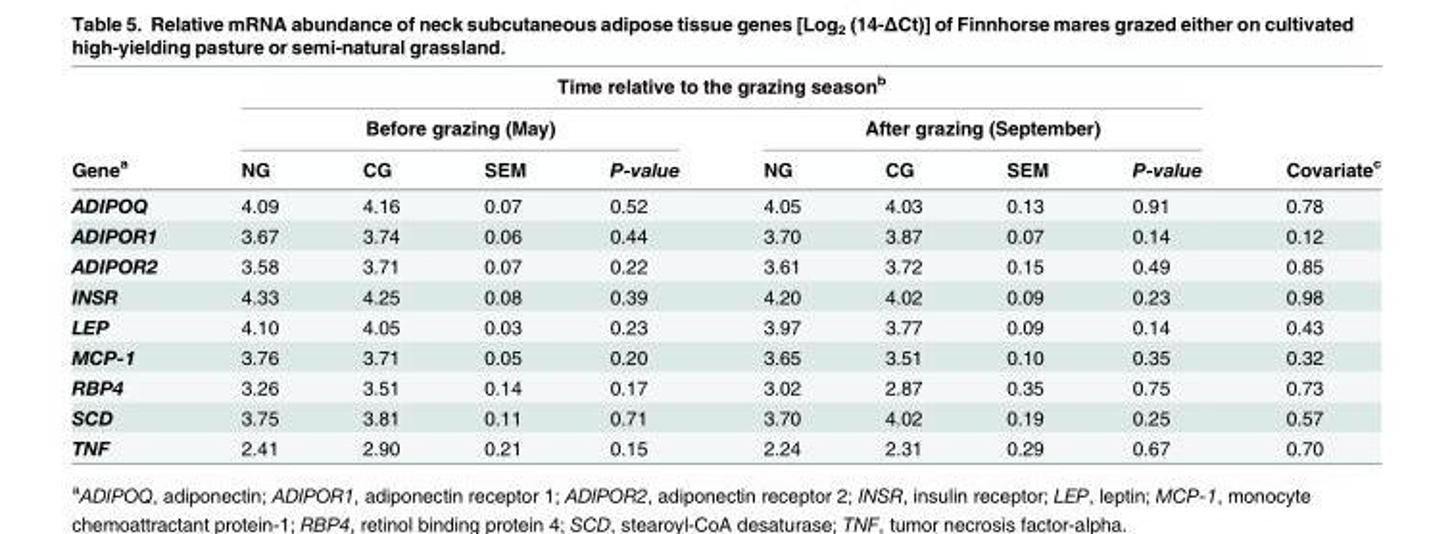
<table><thead><tr><td rowspan="3">Gene<sup>a</sup></td><td colspan="8">Time relative to the grazing season<sup>b</sup></td><td rowspan="3">Covariate<sup>c</sup></td></tr><tr><td colspan="4">Before grazing (May)</td><td colspan="4">After grazing (September)</td></tr><tr><td>NG</td><td>CG</td><td>SEM</td><td>P-value</td><td>NG</td><td>CG</td><td>SEM</td><td>P-value</td></tr></thead><tbody><tr><td>ADIPOQ</td><td>4.09</td><td>4.16</td><td>0.07</td><td>0.52</td><td>4.05</td><td>4.03</td><td>0.13</td><td>0.91</td><td>0.78</td></tr><tr><td>ADIPOR1</td><td>3.67</td><td>3.74</td><td>0.06</td><td>0.44</td><td>3.70</td><td>3.87</td><td>0.07</td><td>0.14</td><td>0.12</td></tr><tr><td>ADIPOR2</td><td>3.58</td><td>3.71</td><td>0.07</td><td>0.22</td><td>3.61</td><td>3.72</td><td>0.15</td><td>0.49</td><td>0.85</td></tr><tr><td>INSR</td><td>4.33</td><td>4.25</td><td>0.08</td><td>0.39</td><td>4.20</td><td>4.02</td><td>0.09</td><td>0.23</td><td>0.98</td></tr><tr><td>LEP</td><td>4.10</td><td>4.05</td><td>0.03</td><td>0.23</td><td>3.97</td><td>3.77</td><td>0.09</td><td>0.14</td><td>0.43</td></tr><tr><td>MCP-1</td><td>3.76</td><td>3.71</td><td>0.05</td><td>0.20</td><td>3.65</td><td>3.51</td><td>0.10</td><td>0.35</td><td>0.32</td></tr><tr><td>RBP4</td><td>3.26</td><td>3.51</td><td>0.14</td><td>0.17</td><td>3.02</td><td>2.87</td><td>0.35</td><td>0.75</td><td>0.73</td></tr><tr><td>SCD</td><td>3.75</td><td>3.81</td><td>0.11</td><td>0.71</td><td>3.70</td><td>4.02</td><td>0.19</td><td>0.25</td><td>0.57</td></tr><tr><td>TNF</td><td>2.41</td><td>2.90</td><td>0.21</td><td>0.15</td><td>2.24</td><td>2.31</td><td>0.29</td><td>0.67</td><td>0.70</td></tr></tbody></table>